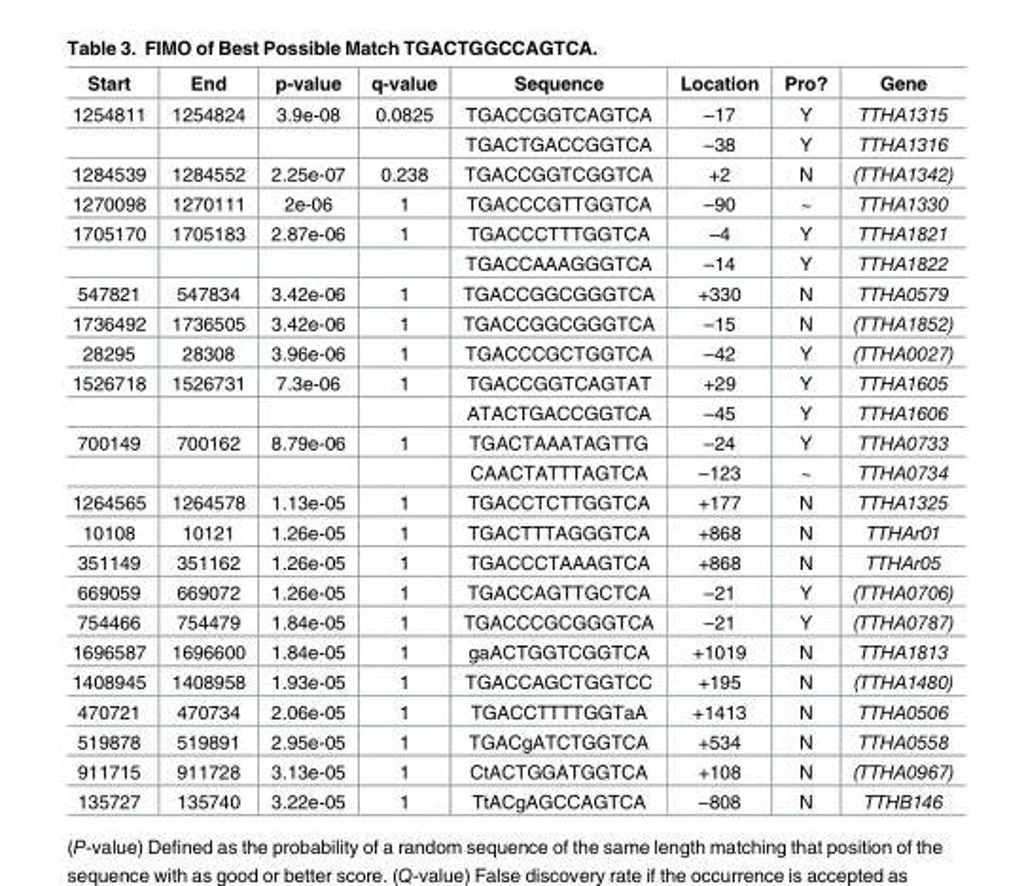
<table><thead><tr><td>Start</td><td>End</td><td>p-value</td><td>q-value</td><td>Sequence</td><td>Location</td><td>Pro?</td><td>Gene</td></tr></thead><tbody><tr><td rowspan="2">1254811</td><td>1254824</td><td>3.9e-08</td><td>0.0825</td><td>TGACCGGTCAGTCA</td><td>–17</td><td>Y</td><td>TTHA1315</td></tr><tr><td></td><td></td><td></td><td>TGACTGACCGGTCA</td><td>–38</td><td>Y</td><td>TTHA1316</td></tr><tr><td>1284539</td><td>1284552</td><td>2.25e-07</td><td>0.238</td><td>TGACCGGTCGGTCA</td><td>+2</td><td>N</td><td>(TTHA1342)</td></tr><tr><td>1270098</td><td>1270111</td><td>2e-06</td><td>1</td><td>TGACCCGTTGGTCA</td><td>–90</td><td>~</td><td>TTHA1330</td></tr><tr><td rowspan="2">1705170</td><td>1705183</td><td>2.87e-06</td><td>1</td><td>TGACCCTTTGGTCA</td><td>–4</td><td>Y</td><td>TTHA1821</td></tr><tr><td></td><td></td><td></td><td>TGACCAAAGGGTCA</td><td>–14</td><td>Y</td><td>TTHA1822</td></tr><tr><td>547821</td><td>547834</td><td>3.42e-06</td><td>1</td><td>TGACCGGCGGGTCA</td><td>+330</td><td>N</td><td>TTHA0579</td></tr><tr><td>1736492</td><td>1736505</td><td>3.42e-06</td><td>1</td><td>TGACCGGCGGGTCA</td><td>–15</td><td>N</td><td>(TTHA1852)</td></tr><tr><td>28295</td><td>28308</td><td>3.96e-06</td><td>1</td><td>TGACCCGCTGGTCA</td><td>–42</td><td>Y</td><td>(TTHA0027)</td></tr><tr><td rowspan="2">1526718</td><td>1526731</td><td>7.3e-06</td><td>1</td><td>TGACCGGTCAGTAT</td><td>+29</td><td>Y</td><td>TTHA1605</td></tr><tr><td></td><td></td><td></td><td>ATACTGACCGGTCA</td><td>–45</td><td>Y</td><td>TTHA1606</td></tr><tr><td rowspan="2">700149</td><td>700162</td><td>8.79e-06</td><td>1</td><td>TGACTAAATAGTTG</td><td>–24</td><td>Y</td><td>TTHA0733</td></tr><tr><td></td><td></td><td></td><td>CAACTATTTAGTCA</td><td>–123</td><td>~</td><td>TTHA0734</td></tr><tr><td>1264565</td><td>1264578</td><td>1.13e-05</td><td>1</td><td>TGACCTCTTGGTCA</td><td>+177</td><td>N</td><td>TTHA1325</td></tr><tr><td>10108</td><td>10121</td><td>1.26e-05</td><td>1</td><td>TGACTTTAGGGTCA</td><td>+868</td><td>N</td><td>TTHAr01</td></tr><tr><td>351149</td><td>351162</td><td>1.26e-05</td><td>1</td><td>TGACCCTAAAGTCA</td><td>+868</td><td>N</td><td>TTHAr05</td></tr><tr><td>669059</td><td>669072</td><td>1.26e-05</td><td>1</td><td>TGACCAGTTGCTCA</td><td>–21</td><td>Y</td><td>(TTHA0706)</td></tr><tr><td>754466</td><td>754479</td><td>1.84e-05</td><td>1</td><td>TGACCCGCGGGTCA</td><td>–21</td><td>Y</td><td>(TTHA0787)</td></tr><tr><td>1696587</td><td>1696600</td><td>1.84e-05</td><td>1</td><td>gaACTGGTCGGTCA</td><td>+1019</td><td>N</td><td>TTHA1813</td></tr><tr><td>1408945</td><td>1408958</td><td>1.93e-05</td><td>1</td><td>TGACCAGCTGGTCC</td><td>+195</td><td>N</td><td>(TTHA1480)</td></tr><tr><td>470721</td><td>470734</td><td>2.06e-05</td><td>1</td><td>TGACCTTTTGGTaA</td><td>+1413</td><td>N</td><td>TTHA0506</td></tr><tr><td>519878</td><td>519891</td><td>2.95e-05</td><td>1</td><td>TGACgATCTGGTCA</td><td>+534</td><td>N</td><td>TTHA0558</td></tr><tr><td>911715</td><td>911728</td><td>3.13e-05</td><td>1</td><td>CtACTGGATGGTCA</td><td>+108</td><td>N</td><td>(TTHA0967)</td></tr><tr><td>135727</td><td>135740</td><td>3.22e-05</td><td>1</td><td>TtACgAGCCAGTCA</td><td>–808</td><td>N</td><td>TTHB146</td></tr></tbody></table>